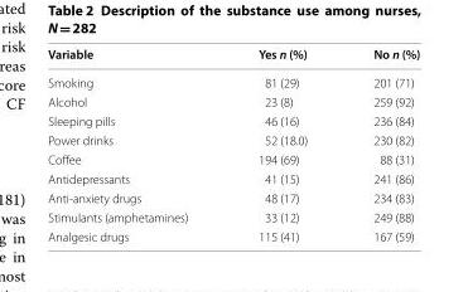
<table><thead><tr><td>Variable</td><td>Yes n (%)</td><td>No n (%)</td></tr></thead><tbody><tr><td>Smoking</td><td>81 (29)</td><td>201 (71)</td></tr><tr><td>Alcohol</td><td>23 (8)</td><td>259 (92)</td></tr><tr><td>Sleeping pills</td><td>46 (16)</td><td>236 (84)</td></tr><tr><td>Power drinks</td><td>52 (18.0)</td><td>230 (82)</td></tr><tr><td>Coffee</td><td>194 (69)</td><td>88 (31)</td></tr><tr><td>Antidepressants</td><td>41 (15)</td><td>241 (86)</td></tr><tr><td>Anti-anxiety drugs</td><td>48 (17)</td><td>234 (83)</td></tr><tr><td>Stimulants (amphetamines)</td><td>33 (12)</td><td>249 (88)</td></tr><tr><td>Analgesic drugs</td><td>115 (41)</td><td>167 (59)</td></tr></tbody></table>